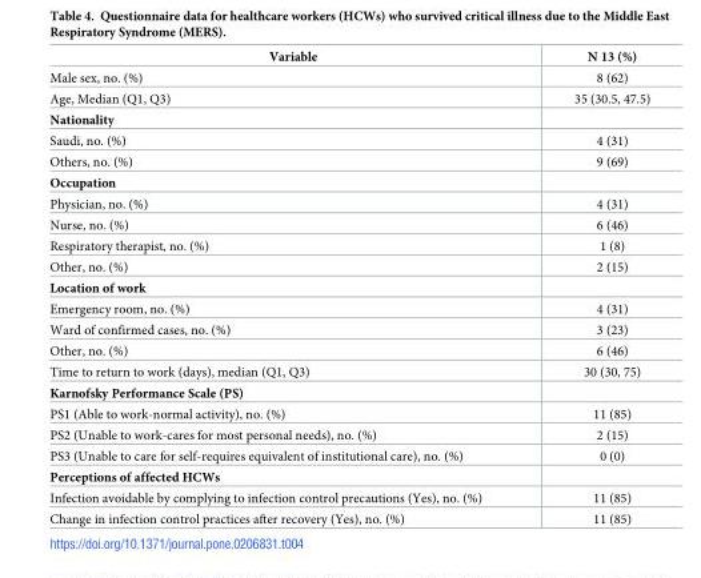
<table><thead><tr><td>Variable</td><td>N 13 (%)</td></tr></thead><tbody><tr><td>Male sex, no. (%)</td><td>8 (62)</td></tr><tr><td>Age, Median (Q1, Q3)</td><td>35 (30.5, 47.5)</td></tr><tr><td colspan="2">Nationality</td></tr><tr><td>Saudi, no. (%)</td><td>4 (31)</td></tr><tr><td>Others, no. (%)</td><td>9 (69)</td></tr><tr><td colspan="2">Occupation</td></tr><tr><td>Physician, no. (%)</td><td>4 (31)</td></tr><tr><td>Nurse, no. (%)</td><td>6 (46)</td></tr><tr><td>Respiratory therapist, no. (%)</td><td>1 (8)</td></tr><tr><td>Other, no. (%)</td><td>2 (15)</td></tr><tr><td colspan="2">Location of work</td></tr><tr><td>Emergency room, no. (%)</td><td>4 (31)</td></tr><tr><td>Ward of confirmed cases, no. (%)</td><td>3 (23)</td></tr><tr><td>Other, no. (%)</td><td>6 (46)</td></tr><tr><td>Time to return to work (days), median (Q1, Q3)</td><td>30 (30, 75)</td></tr><tr><td colspan="2">Karnofsky Performance Scale (PS)</td></tr><tr><td>PS1 (Able to work-normal activity), no. (%)</td><td>11 (85)</td></tr><tr><td>PS2 (Unable to work-cares for most personal needs), no. (%)</td><td>2 (15)</td></tr><tr><td>PS3 (Unable to care for self-requires equivalent of institutional care), no. (%)</td><td>0 (0)</td></tr><tr><td colspan="2">Perceptions of affected HCWs</td></tr><tr><td>Infection avoidable by complying to infection control precautions (Yes), no. (%)</td><td>11 (85)</td></tr><tr><td>Change in infection control practices after recovery (Yes), no. (%)</td><td>11 (85)</td></tr></tbody></table>